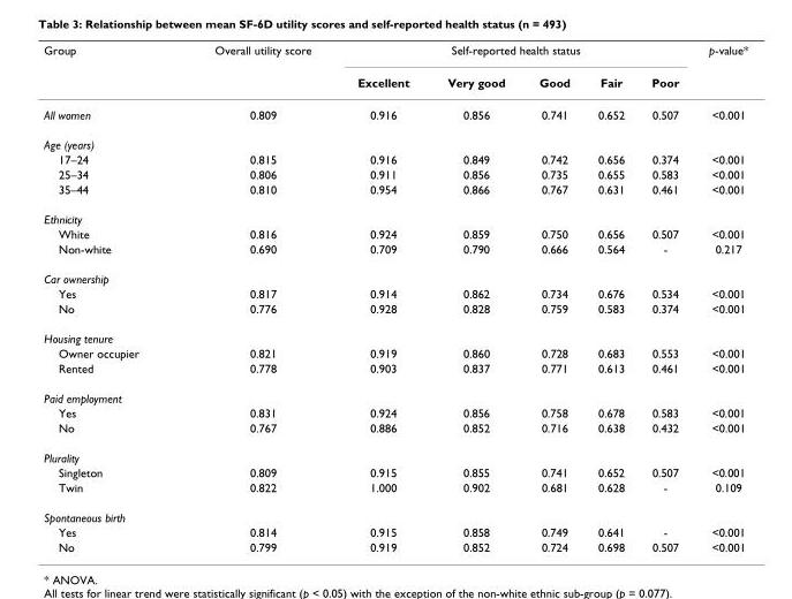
<table><thead><tr><td rowspan="2">Group</td><td rowspan="2">Overall utility score</td><td colspan="5">Self-reported health status</td><td rowspan="2">p-value*</td></tr><tr><td>Excellent</td><td>Very good</td><td>Good</td><td>Fair</td><td>Poor</td></tr></thead><tbody><tr><td>All women</td><td>0.809</td><td>0.916</td><td>0.856</td><td>0.741</td><td>0.652</td><td>0.507</td><td>&lt;0.001</td></tr><tr><td colspan="8">Age (years)</td></tr><tr><td>17–24</td><td>0.815</td><td>0.916</td><td>0.849</td><td>0.742</td><td>0.656</td><td>0.374</td><td>&lt;0.001</td></tr><tr><td>25–34</td><td>0.806</td><td>0.911</td><td>0.856</td><td>0.735</td><td>0.655</td><td>0.583</td><td>&lt;0.001</td></tr><tr><td>35–44</td><td>0.810</td><td>0.954</td><td>0.866</td><td>0.767</td><td>0.631</td><td>0.461</td><td>&lt;0.001</td></tr><tr><td colspan="8">Ethnicity</td></tr><tr><td>White</td><td>0.816</td><td>0.924</td><td>0.859</td><td>0.750</td><td>0.656</td><td>0.507</td><td>&lt;0.001</td></tr><tr><td>Non-white</td><td>0.690</td><td>0.709</td><td>0.790</td><td>0.666</td><td>0.564</td><td>-</td><td>0.217</td></tr><tr><td colspan="8">Car ownership</td></tr><tr><td>Yes</td><td>0.817</td><td>0.914</td><td>0.862</td><td>0.734</td><td>0.676</td><td>0.534</td><td>&lt;0.001</td></tr><tr><td>No</td><td>0.776</td><td>0.928</td><td>0.828</td><td>0.759</td><td>0.583</td><td>0.374</td><td>&lt;0.001</td></tr><tr><td colspan="8">Housing tenure</td></tr><tr><td>Owner occupier</td><td>0.821</td><td>0.919</td><td>0.860</td><td>0.728</td><td>0.683</td><td>0.553</td><td>&lt;0.001</td></tr><tr><td>Rented</td><td>0.778</td><td>0.903</td><td>0.837</td><td>0.771</td><td>0.613</td><td>0.461</td><td>&lt;0.001</td></tr><tr><td colspan="8">Paid employment</td></tr><tr><td>Yes</td><td>0.831</td><td>0.924</td><td>0.856</td><td>0.758</td><td>0.678</td><td>0.583</td><td>&lt;0.001</td></tr><tr><td>No</td><td>0.767</td><td>0.886</td><td>0.852</td><td>0.716</td><td>0.638</td><td>0.432</td><td>&lt;0.001</td></tr><tr><td colspan="8">Plurality</td></tr><tr><td>Singleton</td><td>0.809</td><td>0.915</td><td>0.855</td><td>0.741</td><td>0.652</td><td>0.507</td><td>&lt;0.001</td></tr><tr><td>Twin</td><td>0.822</td><td>1.000</td><td>0.902</td><td>0.681</td><td>0.628</td><td>-</td><td>0.109</td></tr><tr><td colspan="8">Spontaneous birth</td></tr><tr><td>Yes</td><td>0.814</td><td>0.915</td><td>0.858</td><td>0.749</td><td>0.641</td><td>-</td><td>&lt;0.001</td></tr><tr><td>No</td><td>0.799</td><td>0.919</td><td>0.852</td><td>0.724</td><td>0.698</td><td>0.507</td><td>&lt;0.001</td></tr></tbody></table>